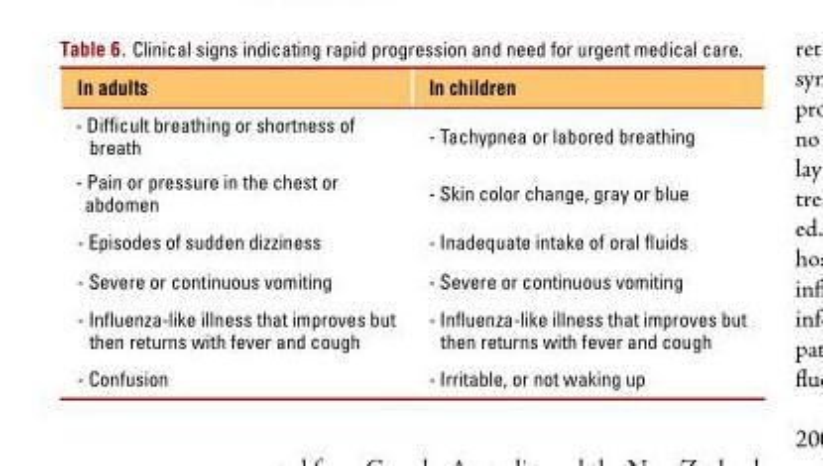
<table><thead><tr><td>In adults</td><td>In children</td></tr></thead><tbody><tr><td>- Difficult breathing or shortness of breath</td><td>- Tachypnea or labored breathing</td></tr><tr><td>- Pain or pressure in the chest or abdomen</td><td>- Skin color change, gray or blue</td></tr><tr><td>- Episodes of sudden dizziness</td><td>- Inadequate intake of oral fluids</td></tr><tr><td>- Severe or continuous vomiting</td><td>- Severe or continuous vomiting</td></tr><tr><td>- Influenza-like illness that improves but then returns with fever and cough</td><td>- Influenza-like illness that improves but then returns with fever and cough</td></tr><tr><td>- Confusion</td><td>- Irritable, or not waking up</td></tr></tbody></table>